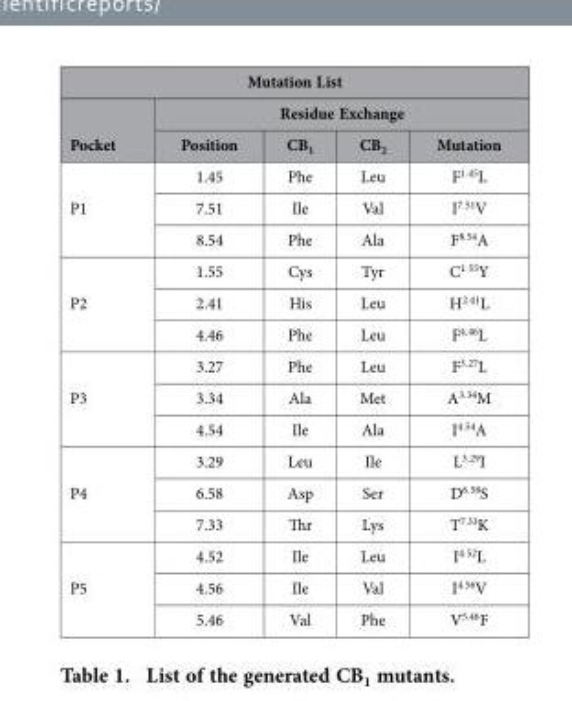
<table><thead><tr><td colspan="5">Mutation List</td></tr><tr><td rowspan="2">Pocket</td><td colspan="4">Residue Exchange</td></tr><tr><td>Position</td><td>CB<sub>1</sub></td><td>CB<sub>2</sub></td><td>Mutation</td></tr></thead><tbody><tr><td rowspan="3">P1</td><td>1.45</td><td>Phe</td><td>Leu</td><td>F<sup>1.45</sup>L</td></tr><tr><td>7.51</td><td>Ile</td><td>Val</td><td>I<sup>7.51</sup>V</td></tr><tr><td>8.54</td><td>Phe</td><td>Ala</td><td>F<sup>8.54</sup>A</td></tr><tr><td rowspan="3">P2</td><td>1.55</td><td>Cys</td><td>Tyr</td><td>C<sup>1.55</sup>Y</td></tr><tr><td>2.41</td><td>His</td><td>Leu</td><td>H<sup>2.41</sup>L</td></tr><tr><td>4.46</td><td>Phe</td><td>Leu</td><td>F<sup>4.46</sup>L</td></tr><tr><td rowspan="3">P3</td><td>3.27</td><td>Phe</td><td>Leu</td><td>F<sup>3.27</sup>L</td></tr><tr><td>3.34</td><td>Ala</td><td>Met</td><td>A<sup>3.34</sup>M</td></tr><tr><td>4.54</td><td>Ile</td><td>Ala</td><td>I<sup>4.54</sup>A</td></tr><tr><td rowspan="3">P4</td><td>3.29</td><td>Leu</td><td>Ile</td><td>L<sup>3.29</sup>I</td></tr><tr><td>6.58</td><td>Asp</td><td>Ser</td><td>D<sup>6.58</sup>S</td></tr><tr><td>7.33</td><td>Thr</td><td>Lys</td><td>T<sup>7.33</sup>K</td></tr><tr><td rowspan="3">P5</td><td>4.52</td><td>Ile</td><td>Leu</td><td>I<sup>4.52</sup>L</td></tr><tr><td>4.56</td><td>Ile</td><td>Val</td><td>I<sup>4.56</sup>V</td></tr><tr><td>5.46</td><td>Val</td><td>Phe</td><td>V<sup>5.46</sup>F</td></tr></tbody></table>